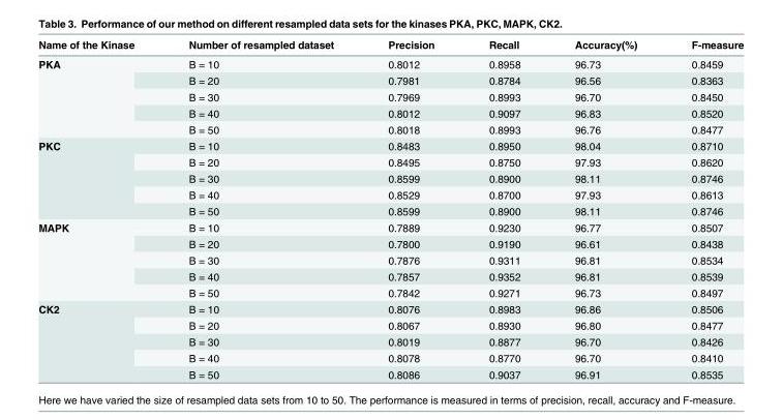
<table><thead><tr><td>Name of the Kinase</td><td>Number of resampled dataset</td><td>Precision</td><td>Recall</td><td>Accuracy(%)</td><td>F-measure</td></tr></thead><tbody><tr><td rowspan="5">PKA</td><td>B = 10</td><td>0.8012</td><td>0.8958</td><td>96.73</td><td>0.8459</td></tr><tr><td>B = 20</td><td>0.7981</td><td>0.8784</td><td>96.56</td><td>0.8363</td></tr><tr><td>B = 30</td><td>0.7969</td><td>0.8993</td><td>96.70</td><td>0.8450</td></tr><tr><td>B = 40</td><td>0.8012</td><td>0.9097</td><td>96.83</td><td>0.8520</td></tr><tr><td>B = 50</td><td>0.8018</td><td>0.8993</td><td>96.76</td><td>0.8477</td></tr><tr><td rowspan="5">PKC</td><td>B = 10</td><td>0.8483</td><td>0.8950</td><td>98.04</td><td>0.8710</td></tr><tr><td>B = 20</td><td>0.8495</td><td>0.8750</td><td>97.93</td><td>0.8620</td></tr><tr><td>B = 30</td><td>0.8599</td><td>0.8900</td><td>98.11</td><td>0.8746</td></tr><tr><td>B = 40</td><td>0.8529</td><td>0.8700</td><td>97.93</td><td>0.8613</td></tr><tr><td>B = 50</td><td>0.8599</td><td>0.8900</td><td>98.11</td><td>0.8746</td></tr><tr><td rowspan="5">MAPK</td><td>B = 10</td><td>0.7889</td><td>0.9230</td><td>96.77</td><td>0.8507</td></tr><tr><td>B = 20</td><td>0.7800</td><td>0.9190</td><td>96.61</td><td>0.8438</td></tr><tr><td>B = 30</td><td>0.7876</td><td>0.9311</td><td>96.81</td><td>0.8534</td></tr><tr><td>B = 40</td><td>0.7857</td><td>0.9352</td><td>96.81</td><td>0.8539</td></tr><tr><td>B = 50</td><td>0.7842</td><td>0.9271</td><td>96.73</td><td>0.8497</td></tr><tr><td rowspan="5">CK2</td><td>B = 10</td><td>0.8076</td><td>0.8983</td><td>96.86</td><td>0.8506</td></tr><tr><td>B = 20</td><td>0.8067</td><td>0.8930</td><td>96.80</td><td>0.8477</td></tr><tr><td>B = 30</td><td>0.8019</td><td>0.8877</td><td>96.70</td><td>0.8426</td></tr><tr><td>B = 40</td><td>0.8078</td><td>0.8770</td><td>96.70</td><td>0.8410</td></tr><tr><td>B = 50</td><td>0.8086</td><td>0.9037</td><td>96.91</td><td>0.8535</td></tr></tbody></table>